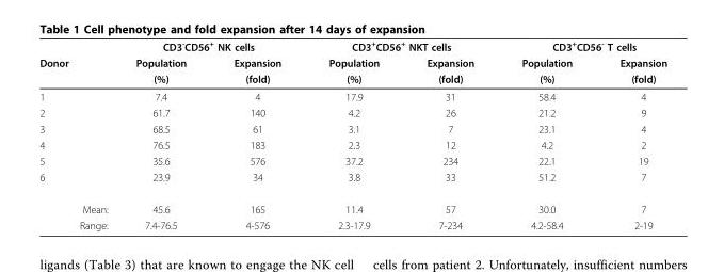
<table><thead><tr><td rowspan="3">Donor</td><td colspan="2">CD3<sup>-</sup>CD56<sup>+</sup> NK cells</td><td colspan="2">CD3<sup>+</sup>CD56<sup>+</sup> NKT cells</td><td colspan="2">CD3<sup>+</sup>CD56<sup>-</sup> T cells</td></tr><tr><td rowspan="2">Population (%)</td><td rowspan="2">Expansion (fold)</td><td rowspan="2">Population (%)</td><td rowspan="2">Expansion (fold)</td><td rowspan="2">Population (%)</td><td rowspan="2">Expansion (fold)</td></tr><tr></tr></thead><tbody><tr><td>1</td><td>7.4</td><td>4</td><td>17.9</td><td>31</td><td>58.4</td><td>4</td></tr><tr><td>2</td><td>61.7</td><td>140</td><td>4.2</td><td>26</td><td>21.2</td><td>9</td></tr><tr><td>3</td><td>68.5</td><td>61</td><td>3.1</td><td>7</td><td>23.1</td><td>4</td></tr><tr><td>4</td><td>76.5</td><td>183</td><td>2.3</td><td>12</td><td>4.2</td><td>2</td></tr><tr><td>5</td><td>35.6</td><td>576</td><td>37.2</td><td>234</td><td>22.1</td><td>19</td></tr><tr><td>6</td><td>23.9</td><td>34</td><td>3.8</td><td>33</td><td>51.2</td><td>7</td></tr><tr><td>Mean:</td><td>45.6</td><td>165</td><td>11.4</td><td>57</td><td>30.0</td><td>7</td></tr><tr><td>Range:</td><td>7.4-76.5</td><td>4-576</td><td>2.3-17.9</td><td>7-234</td><td>4.2-58.4</td><td>2-19</td></tr></tbody></table>